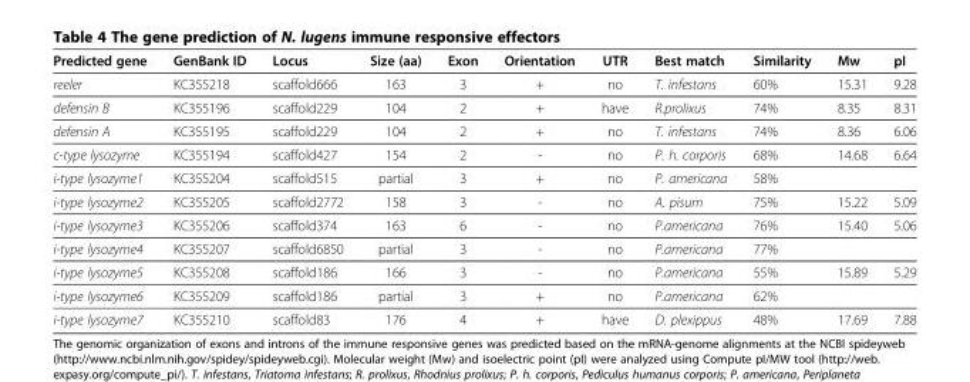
<table><thead><tr><td>Predicted gene</td><td>GenBank ID</td><td>Locus</td><td>Size (aa)</td><td>Exon</td><td>Orientation</td><td>UTR</td><td>Best match</td><td>Similarity</td><td>Mw</td><td>pI</td></tr></thead><tbody><tr><td>reeler</td><td>KC355218</td><td>scaffold666</td><td>163</td><td>3</td><td>+</td><td>no</td><td>T. infestans</td><td>60%</td><td>15.31</td><td>9.28</td></tr><tr><td>defensin B</td><td>KC355196</td><td>scaffold229</td><td>104</td><td>2</td><td>+</td><td>have</td><td>R.prolixus</td><td>74%</td><td>8.35</td><td>8.31</td></tr><tr><td>defensin A</td><td>KC355195</td><td>scaffold229</td><td>104</td><td>2</td><td>+</td><td>no</td><td>T. infestans</td><td>74%</td><td>8.36</td><td>6.06</td></tr><tr><td>c-type lysozyme</td><td>KC355194</td><td>scaffold427</td><td>154</td><td>2</td><td>-</td><td>no</td><td>P. h. corporis</td><td>68%</td><td>14.68</td><td>6.64</td></tr><tr><td>i-type lysozyme1</td><td>KC355204</td><td>scaffold515</td><td>partial</td><td>3</td><td>+</td><td>no</td><td>P. americana</td><td>58%</td><td></td><td></td></tr><tr><td>i-type lysozyme2</td><td>KC355205</td><td>scaffold2772</td><td>158</td><td>3</td><td>-</td><td>no</td><td>A. pisum</td><td>75%</td><td>15.22</td><td>5.09</td></tr><tr><td>i-type lysozyme3</td><td>KC355206</td><td>scaffold374</td><td>163</td><td>6</td><td>-</td><td>no</td><td>P.americana</td><td>76%</td><td>15.40</td><td>5.06</td></tr><tr><td>i-type lysozyme4</td><td>KC355207</td><td>scaffold6850</td><td>partial</td><td>3</td><td>-</td><td>no</td><td>P.americana</td><td>77%</td><td></td><td></td></tr><tr><td>i-type lysozyme5</td><td>KC355208</td><td>scaffold186</td><td>166</td><td>3</td><td>-</td><td>no</td><td>P.americana</td><td>55%</td><td>15.89</td><td>5.29</td></tr><tr><td>i-type lysozyme6</td><td>KC355209</td><td>scaffold186</td><td>partial</td><td>3</td><td>+</td><td>no</td><td>P.americana</td><td>62%</td><td></td><td></td></tr><tr><td>i-type lysozyme7</td><td>KC355210</td><td>scaffold83</td><td>176</td><td>4</td><td>+</td><td>have</td><td>D. plexippus</td><td>48%</td><td>17.69</td><td>7.88</td></tr></tbody></table>